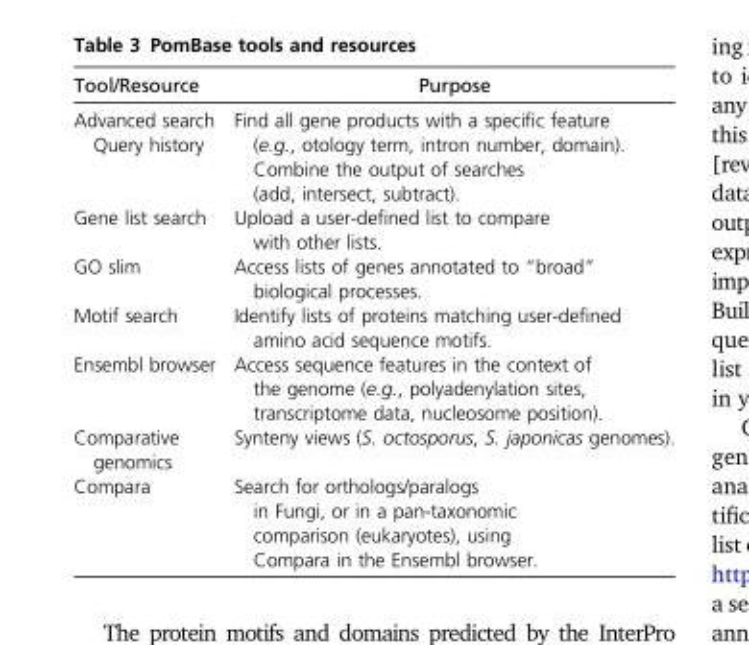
<table><thead><tr><td>Tool/Resource</td><td>Purpose</td></tr></thead><tbody><tr><td>Advanced search Query history</td><td>Find all gene products with a specific feature (e.g., otology term, intron number, domain). Combine the output of searches (add, intersect, subtract).</td></tr><tr><td>Gene list search</td><td>Upload a user-defined list to compare with other lists.</td></tr><tr><td>GO slim</td><td>Access lists of genes annotated to “broad” biological processes.</td></tr><tr><td>Motif search</td><td>Identify lists of proteins matching user-defined amino acid sequence motifs.</td></tr><tr><td>Ensembl browser</td><td>Access sequence features in the context of the genome (e.g., polyadenylation sites, transcriptome data, nucleosome position).</td></tr><tr><td>Comparative genomics</td><td>Synteny views (S. octosporus, S. japonicas genomes).</td></tr><tr><td>Compara</td><td>Search for orthologs/paralogs in Fungi, or in a pan-taxonomic comparison (eukaryotes), using Compara in the Ensembl browser.</td></tr></tbody></table>